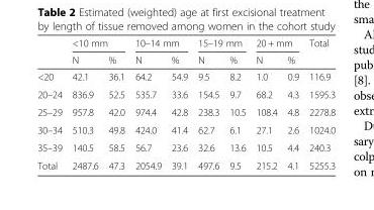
<table><thead><tr><td rowspan="2"></td><td colspan="2">&lt;10 mm</td><td colspan="2">10–14 mm</td><td colspan="2">15–19 mm</td><td colspan="2">20 + mm</td><td rowspan="2">Total</td></tr><tr><td>N</td><td>%</td><td>N</td><td>%</td><td>N</td><td>%</td><td>N</td><td>%</td></tr></thead><tbody><tr><td>&lt;20</td><td>42.1</td><td>36.1</td><td>64.2</td><td>54.9</td><td>9.5</td><td>8.2</td><td>1.0</td><td>0.9</td><td>116.9</td></tr><tr><td>20–24</td><td>836.9</td><td>52.5</td><td>535.7</td><td>33.6</td><td>154.5</td><td>9.7</td><td>68.2</td><td>4.3</td><td>1595.3</td></tr><tr><td>25–29</td><td>957.8</td><td>42.0</td><td>974.4</td><td>42.8</td><td>238.3</td><td>10.5</td><td>108.4</td><td>4.8</td><td>2278.8</td></tr><tr><td>30–34</td><td>510.3</td><td>49.8</td><td>424.0</td><td>41.4</td><td>62.7</td><td>6.1</td><td>27.1</td><td>2.6</td><td>1024.0</td></tr><tr><td>35–39</td><td>140.5</td><td>58.5</td><td>56.7</td><td>23.6</td><td>32.6</td><td>13.6</td><td>10.5</td><td>4.4</td><td>240.3</td></tr><tr><td>Total</td><td>2487.6</td><td>47.3</td><td>2054.9</td><td>39.1</td><td>497.6</td><td>9.5</td><td>215.2</td><td>4.1</td><td>5255.3</td></tr></tbody></table>